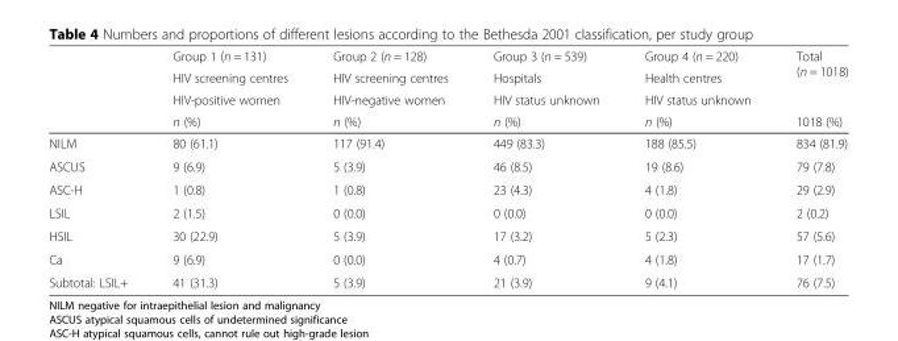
<table><thead><tr><td rowspan="4"></td><td rowspan="4">Group 1 (n = 131) HIV screening centres HIV-positive women n (%)</td><td rowspan="4">Group 2 (n = 128) HIV screening centres HIV-negative women n (%)</td><td rowspan="4">Group 3 (n = 539) Hospitals HIV status unknown n (%)</td><td rowspan="4">Group 4 (n = 220) Health centres HIV status unknown n (%)</td><td rowspan="4">Total (n = 1018) 1018 (%)</td></tr><tr></tr><tr></tr><tr></tr></thead><tbody><tr><td>NILM</td><td>80 (61.1)</td><td>117 (91.4)</td><td>449 (83.3)</td><td>188 (85.5)</td><td>834 (81.9)</td></tr><tr><td>ASCUS</td><td>9 (6.9)</td><td>5 (3.9)</td><td>46 (8.5)</td><td>19 (8.6)</td><td>79 (7.8)</td></tr><tr><td>ASC-H</td><td>1 (0.8)</td><td>1 (0.8)</td><td>23 (4.3)</td><td>4 (1.8)</td><td>29 (2.9)</td></tr><tr><td>LSIL</td><td>2 (1.5)</td><td>0 (0.0)</td><td>0 (0.0)</td><td>0 (0.0)</td><td>2 (0.2)</td></tr><tr><td>HSIL</td><td>30 (22.9)</td><td>5 (3.9)</td><td>17 (3.2)</td><td>5 (2.3)</td><td>57 (5.6)</td></tr><tr><td>Ca</td><td>9 (6.9)</td><td>0 (0.0)</td><td>4 (0.7)</td><td>4 (1.8)</td><td>17 (1.7)</td></tr><tr><td>Subtotal: LSIL+</td><td>41 (31.3)</td><td>5 (3.9)</td><td>21 (3.9)</td><td>9 (4.1)</td><td>76 (7.5)</td></tr></tbody></table>